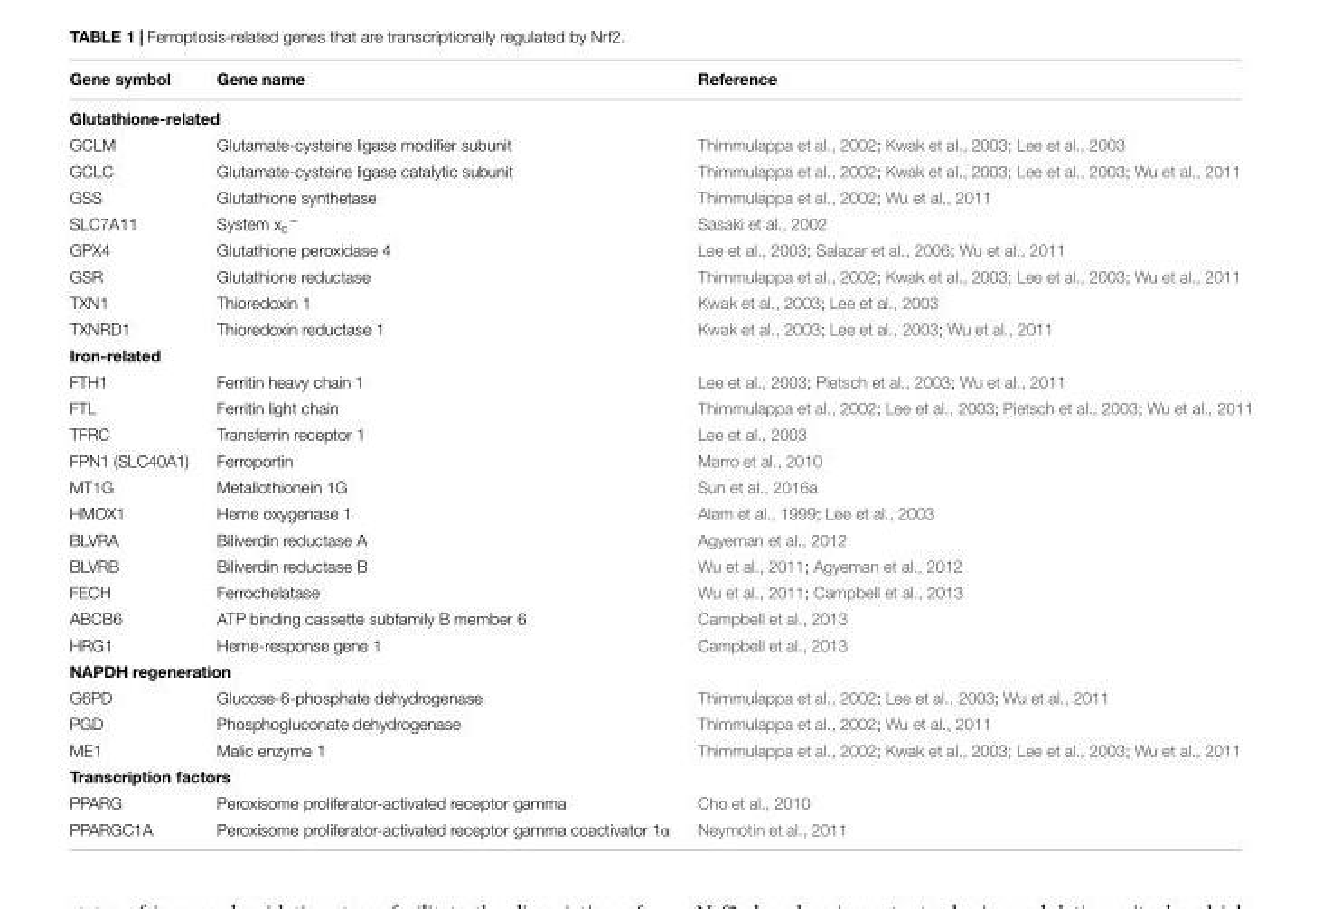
<table><thead><tr><td>Gene symbol</td><td>Gene name</td><td>Reference</td></tr></thead><tbody><tr><td colspan="3">Glutathione-related</td></tr><tr><td>GCLM</td><td>Glutamate-cysteine ligase modifier subunit</td><td>Thimmulappa et al., 2002; Kwak et al., 2003; Lee et al., 2003</td></tr><tr><td>GCLC</td><td>Glutamate-cysteine ligase catalytic subunit</td><td>Thimmulappa et al., 2002; Kwak et al., 2003; Lee et al., 2003; Wu et al., 2011</td></tr><tr><td>GSS</td><td>Glutathione synthetase</td><td>Thimmulappa et al., 2002; Wu et al., 2011</td></tr><tr><td>SLC7A11</td><td>System x<sub>c</sub><sup>−</sup></td><td>Sasaki et al., 2002</td></tr><tr><td>GPX4</td><td>Glutathione peroxidase 4</td><td>Lee et al., 2003; Salazar et al., 2006; Wu et al., 2011</td></tr><tr><td>GSR</td><td>Glutathione reductase</td><td>Thimmulappa et al., 2002; Kwak et al., 2003; Lee et al., 2003; Wu et al., 2011</td></tr><tr><td>TXN1</td><td>Thioredoxin 1</td><td>Kwak et al., 2003; Lee et al., 2003</td></tr><tr><td>TXNRD1</td><td>Thioredoxin reductase 1</td><td>Kwak et al., 2003; Lee et al., 2003; Wu et al., 2011</td></tr><tr><td colspan="3">Iron-related</td></tr><tr><td>FTH1</td><td>Ferritin heavy chain 1</td><td>Lee et al., 2003; Pietsch et al., 2003; Wu et al., 2011</td></tr><tr><td>FTL</td><td>Ferritin light chain</td><td>Thimmulappa et al., 2002; Lee et al., 2003; Pietsch et al., 2003; Wu et al., 2011</td></tr><tr><td>TFRC</td><td>Transferrin receptor 1</td><td>Lee et al., 2003</td></tr><tr><td>FPN1 (SLC40A1)</td><td>Ferroportin</td><td>Marro et al., 2010</td></tr><tr><td>MT1G</td><td>Metallothionein 1G</td><td>Sun et al., 2016a</td></tr><tr><td>HMOX1</td><td>Heme oxygenase 1</td><td>Alam et al., 1999; Lee et al., 2003</td></tr><tr><td>BLVRA</td><td>Biliverdin reductase A</td><td>Agyeman et al., 2012</td></tr><tr><td>BLVRB</td><td>Biliverdin reductase B</td><td>Wu et al., 2011; Agyeman et al., 2012</td></tr><tr><td>FECH</td><td>Ferrochelatase</td><td>Wu et al., 2011; Campbell et al., 2013</td></tr><tr><td>ABCB6</td><td>ATP binding cassette subfamily B member 6</td><td>Campbell et al., 2013</td></tr><tr><td>HRG1</td><td>Heme-response gene 1</td><td>Campbell et al., 2013</td></tr><tr><td colspan="3">NAPDH regeneration</td></tr><tr><td>G6PD</td><td>Glucose-6-phosphate dehydrogenase</td><td>Thimmulappa et al., 2002; Lee et al., 2003; Wu et al., 2011</td></tr><tr><td>PGD</td><td>Phosphogluconate dehydrogenase</td><td>Thimmulappa et al., 2002; Wu et al., 2011</td></tr><tr><td>ME1</td><td>Malic enzyme 1</td><td>Thimmulappa et al., 2002; Kwak et al., 2003; Lee et al., 2003; Wu et al., 2011</td></tr><tr><td colspan="3">Transcription factors</td></tr><tr><td>PPARG</td><td>Peroxisome proliferator-activated receptor gamma</td><td>Cho et al., 2010</td></tr><tr><td>PPARGC1A</td><td>Peroxisome proliferator-activated receptor gamma coactivator 1α</td><td>Neymotin et al., 2011</td></tr></tbody></table>